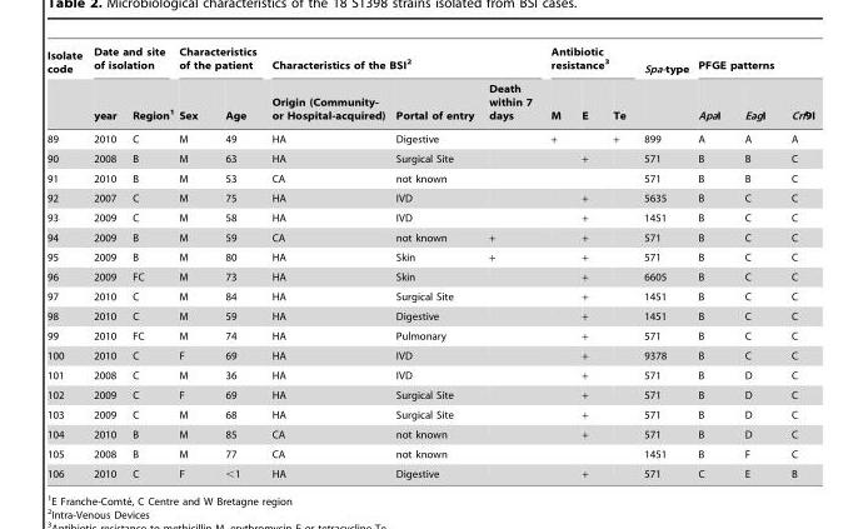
<table><thead><tr><td rowspan="2">Isolate code</td><td colspan="2">Date and site of isolation</td><td colspan="2">Characteristics of the patient</td><td colspan="3">Characteristics of the BSI<sup>2</sup></td><td colspan="3">Antibiotic resistance<sup>3</sup></td><td rowspan="2">Spa-type</td><td colspan="3">PFGE patterns</td></tr><tr><td>year</td><td>Region<sup>1</sup></td><td>Sex</td><td>Age</td><td>Origin (Community- or Hospital-acquired)</td><td>Portal of entry</td><td>Death within 7 days</td><td>M</td><td>E</td><td>Te</td><td>ApaI</td><td>EagI</td><td>Crf9I</td></tr></thead><tbody><tr><td>89</td><td>2010</td><td>C</td><td>M</td><td>49</td><td>HA</td><td>Digestive</td><td></td><td>+</td><td></td><td>+</td><td>899</td><td>A</td><td>A</td><td>A</td></tr><tr><td>90</td><td>2008</td><td>B</td><td>M</td><td>63</td><td>HA</td><td>Surgical Site</td><td></td><td></td><td>+</td><td></td><td>571</td><td>B</td><td>B</td><td>C</td></tr><tr><td>91</td><td>2010</td><td>B</td><td>M</td><td>53</td><td>CA</td><td>not known</td><td></td><td></td><td></td><td></td><td>571</td><td>B</td><td>B</td><td>C</td></tr><tr><td>92</td><td>2007</td><td>C</td><td>M</td><td>75</td><td>HA</td><td>IVD</td><td></td><td></td><td>+</td><td></td><td>5635</td><td>B</td><td>C</td><td>C</td></tr><tr><td>93</td><td>2009</td><td>C</td><td>M</td><td>58</td><td>HA</td><td>IVD</td><td></td><td></td><td>+</td><td></td><td>1451</td><td>B</td><td>C</td><td>C</td></tr><tr><td>94</td><td>2009</td><td>B</td><td>M</td><td>59</td><td>CA</td><td>not known</td><td>+</td><td></td><td>+</td><td></td><td>571</td><td>B</td><td>C</td><td>C</td></tr><tr><td>95</td><td>2009</td><td>B</td><td>M</td><td>80</td><td>HA</td><td>Skin</td><td>+</td><td></td><td>+</td><td></td><td>571</td><td>B</td><td>C</td><td>C</td></tr><tr><td>96</td><td>2009</td><td>FC</td><td>M</td><td>73</td><td>HA</td><td>Skin</td><td></td><td></td><td>+</td><td></td><td>6605</td><td>B</td><td>C</td><td>C</td></tr><tr><td>97</td><td>2010</td><td>C</td><td>M</td><td>84</td><td>HA</td><td>Surgical Site</td><td></td><td></td><td>+</td><td></td><td>1451</td><td>B</td><td>C</td><td>C</td></tr><tr><td>98</td><td>2010</td><td>C</td><td>M</td><td>59</td><td>HA</td><td>Digestive</td><td></td><td></td><td>+</td><td></td><td>1451</td><td>B</td><td>C</td><td>C</td></tr><tr><td>99</td><td>2010</td><td>FC</td><td>M</td><td>74</td><td>HA</td><td>Pulmonary</td><td></td><td></td><td>+</td><td></td><td>571</td><td>B</td><td>C</td><td>C</td></tr><tr><td>100</td><td>2010</td><td>C</td><td>F</td><td>69</td><td>HA</td><td>IVD</td><td></td><td></td><td>+</td><td></td><td>9378</td><td>B</td><td>C</td><td>C</td></tr><tr><td>101</td><td>2008</td><td>C</td><td>M</td><td>36</td><td>HA</td><td>IVD</td><td></td><td></td><td>+</td><td></td><td>571</td><td>B</td><td>D</td><td>C</td></tr><tr><td>102</td><td>2009</td><td>C</td><td>F</td><td>69</td><td>HA</td><td>Surgical Site</td><td></td><td></td><td>+</td><td></td><td>571</td><td>B</td><td>D</td><td>C</td></tr><tr><td>103</td><td>2009</td><td>C</td><td>M</td><td>68</td><td>HA</td><td>Surgical Site</td><td></td><td></td><td>+</td><td></td><td>571</td><td>B</td><td>D</td><td>C</td></tr><tr><td>104</td><td>2010</td><td>B</td><td>M</td><td>85</td><td>CA</td><td>not known</td><td></td><td></td><td>+</td><td></td><td>571</td><td>B</td><td>D</td><td>C</td></tr><tr><td>105</td><td>2008</td><td>B</td><td>M</td><td>77</td><td>CA</td><td>not known</td><td></td><td></td><td></td><td></td><td>1451</td><td>B</td><td>F</td><td>C</td></tr><tr><td>106</td><td>2010</td><td>C</td><td>F</td><td>&lt;1</td><td>HA</td><td>Digestive</td><td></td><td></td><td>+</td><td></td><td>571</td><td>C</td><td>E</td><td>B</td></tr></tbody></table>